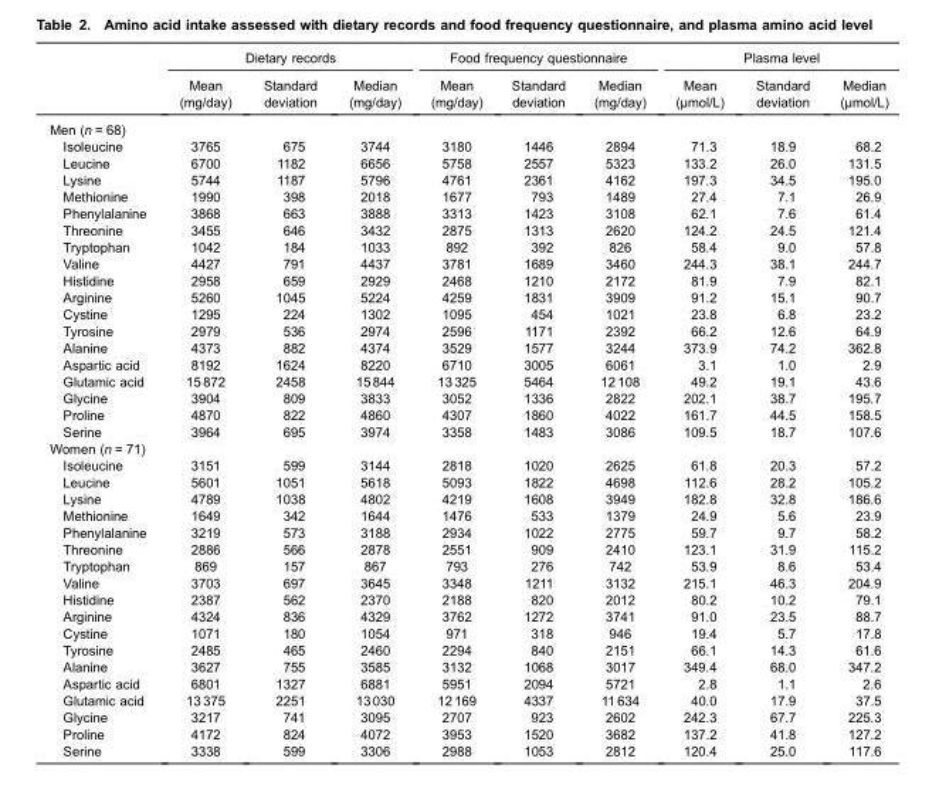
<table><thead><tr><td rowspan="2"></td><td colspan="3">Dietary records</td><td colspan="3">Food frequency questionnaire</td><td colspan="3">Plasma level</td></tr><tr><td>Mean (mg/day)</td><td>Standard deviation</td><td>Median (mg/day)</td><td>Mean (mg/day)</td><td>Standard deviation</td><td>Median (mg/day)</td><td>Mean (µmol/L)</td><td>Standard deviation</td><td>Median (µmol/L)</td></tr></thead><tbody><tr><td colspan="10">Men (n = 68)</td></tr><tr><td>Isoleucine</td><td>3765</td><td>675</td><td>3744</td><td>3180</td><td>1446</td><td>2894</td><td>71.3</td><td>18.9</td><td>68.2</td></tr><tr><td>Leucine</td><td>6700</td><td>1182</td><td>6656</td><td>5758</td><td>2557</td><td>5323</td><td>133.2</td><td>26.0</td><td>131.5</td></tr><tr><td>Lysine</td><td>5744</td><td>1187</td><td>5796</td><td>4761</td><td>2361</td><td>4162</td><td>197.3</td><td>34.5</td><td>195.0</td></tr><tr><td>Methionine</td><td>1990</td><td>398</td><td>2018</td><td>1677</td><td>793</td><td>1489</td><td>27.4</td><td>7.1</td><td>26.9</td></tr><tr><td>Phenylalanine</td><td>3868</td><td>663</td><td>3888</td><td>3313</td><td>1423</td><td>3108</td><td>62.1</td><td>7.6</td><td>61.4</td></tr><tr><td>Threonine</td><td>3455</td><td>646</td><td>3432</td><td>2875</td><td>1313</td><td>2620</td><td>124.2</td><td>24.5</td><td>121.4</td></tr><tr><td>Tryptophan</td><td>1042</td><td>184</td><td>1033</td><td>892</td><td>392</td><td>826</td><td>58.4</td><td>9.0</td><td>57.8</td></tr><tr><td>Valine</td><td>4427</td><td>791</td><td>4437</td><td>3781</td><td>1689</td><td>3460</td><td>244.3</td><td>38.1</td><td>244.7</td></tr><tr><td>Histidine</td><td>2958</td><td>659</td><td>2929</td><td>2468</td><td>1210</td><td>2172</td><td>81.9</td><td>7.9</td><td>82.1</td></tr><tr><td>Arginine</td><td>5260</td><td>1045</td><td>5224</td><td>4259</td><td>1831</td><td>3909</td><td>91.2</td><td>15.1</td><td>90.7</td></tr><tr><td>Cystine</td><td>1295</td><td>224</td><td>1302</td><td>1095</td><td>454</td><td>1021</td><td>23.8</td><td>6.8</td><td>23.2</td></tr><tr><td>Tyrosine</td><td>2979</td><td>536</td><td>2974</td><td>2596</td><td>1171</td><td>2392</td><td>66.2</td><td>12.6</td><td>64.9</td></tr><tr><td>Alanine</td><td>4373</td><td>882</td><td>4374</td><td>3529</td><td>1577</td><td>3244</td><td>373.9</td><td>74.2</td><td>362.8</td></tr><tr><td>Aspartic acid</td><td>8192</td><td>1624</td><td>8220</td><td>6710</td><td>3005</td><td>6061</td><td>3.1</td><td>1.0</td><td>2.9</td></tr><tr><td>Glutamic acid</td><td>15 872</td><td>2458</td><td>15 844</td><td>13 325</td><td>5464</td><td>12 108</td><td>49.2</td><td>19.1</td><td>43.6</td></tr><tr><td>Glycine</td><td>3904</td><td>809</td><td>3833</td><td>3052</td><td>1336</td><td>2822</td><td>202.1</td><td>38.7</td><td>195.7</td></tr><tr><td>Proline</td><td>4870</td><td>822</td><td>4860</td><td>4307</td><td>1860</td><td>4022</td><td>161.7</td><td>44.5</td><td>158.5</td></tr><tr><td>Serine</td><td>3964</td><td>695</td><td>3974</td><td>3358</td><td>1483</td><td>3086</td><td>109.5</td><td>18.7</td><td>107.6</td></tr><tr><td colspan="10">Women (n = 71)</td></tr><tr><td>Isoleucine</td><td>3151</td><td>599</td><td>3144</td><td>2818</td><td>1020</td><td>2625</td><td>61.8</td><td>20.3</td><td>57.2</td></tr><tr><td>Leucine</td><td>5601</td><td>1051</td><td>5618</td><td>5093</td><td>1822</td><td>4698</td><td>112.6</td><td>28.2</td><td>105.2</td></tr><tr><td>Lysine</td><td>4789</td><td>1038</td><td>4802</td><td>4219</td><td>1608</td><td>3949</td><td>182.8</td><td>32.8</td><td>186.6</td></tr><tr><td>Methionine</td><td>1649</td><td>342</td><td>1644</td><td>1476</td><td>533</td><td>1379</td><td>24.9</td><td>5.6</td><td>23.9</td></tr><tr><td>Phenylalanine</td><td>3219</td><td>573</td><td>3188</td><td>2934</td><td>1022</td><td>2775</td><td>59.7</td><td>9.7</td><td>58.2</td></tr><tr><td>Threonine</td><td>2886</td><td>566</td><td>2878</td><td>2551</td><td>909</td><td>2410</td><td>123.1</td><td>31.9</td><td>115.2</td></tr><tr><td>Tryptophan</td><td>869</td><td>157</td><td>867</td><td>793</td><td>276</td><td>742</td><td>53.9</td><td>8.6</td><td>53.4</td></tr><tr><td>Valine</td><td>3703</td><td>697</td><td>3645</td><td>3348</td><td>1211</td><td>3132</td><td>215.1</td><td>46.3</td><td>204.9</td></tr><tr><td>Histidine</td><td>2387</td><td>562</td><td>2370</td><td>2188</td><td>820</td><td>2012</td><td>80.2</td><td>10.2</td><td>79.1</td></tr><tr><td>Arginine</td><td>4324</td><td>836</td><td>4329</td><td>3762</td><td>1272</td><td>3741</td><td>91.0</td><td>23.5</td><td>88.7</td></tr><tr><td>Cystine</td><td>1071</td><td>180</td><td>1054</td><td>971</td><td>318</td><td>946</td><td>19.4</td><td>5.7</td><td>17.8</td></tr><tr><td>Tyrosine</td><td>2485</td><td>465</td><td>2460</td><td>2294</td><td>840</td><td>2151</td><td>66.1</td><td>14.3</td><td>61.6</td></tr><tr><td>Alanine</td><td>3627</td><td>755</td><td>3585</td><td>3132</td><td>1068</td><td>3017</td><td>349.4</td><td>68.0</td><td>347.2</td></tr><tr><td>Aspartic acid</td><td>6801</td><td>1327</td><td>6881</td><td>5951</td><td>2094</td><td>5721</td><td>2.8</td><td>1.1</td><td>2.6</td></tr><tr><td>Glutamic acid</td><td>13 375</td><td>2251</td><td>13 030</td><td>12 169</td><td>4337</td><td>11 634</td><td>40.0</td><td>17.9</td><td>37.5</td></tr><tr><td>Glycine</td><td>3217</td><td>741</td><td>3095</td><td>2707</td><td>923</td><td>2602</td><td>242.3</td><td>67.7</td><td>225.3</td></tr><tr><td>Proline</td><td>4172</td><td>824</td><td>4072</td><td>3953</td><td>1520</td><td>3682</td><td>137.2</td><td>41.8</td><td>127.2</td></tr><tr><td>Serine</td><td>3338</td><td>599</td><td>3306</td><td>2988</td><td>1053</td><td>2812</td><td>120.4</td><td>25.0</td><td>117.6</td></tr></tbody></table>